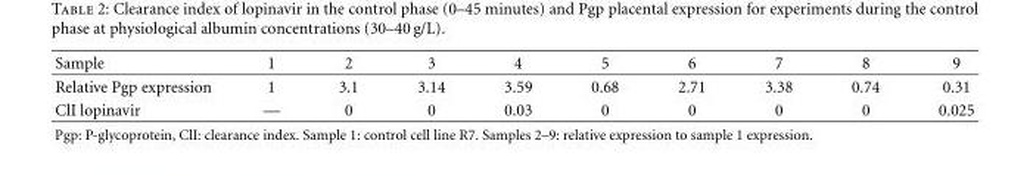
<table><thead><tr><td>Sample</td><td>1</td><td>2</td><td>3</td><td>4</td><td>5</td><td>6</td><td>7</td><td>8</td><td>9</td></tr></thead><tbody><tr><td>Relative Pgp expression</td><td>1</td><td>3.1</td><td>3.14</td><td>3.59</td><td>0.68</td><td>2.71</td><td>3.38</td><td>0.74</td><td>0.31</td></tr><tr><td>ClI lopinavir</td><td>—</td><td>0</td><td>0</td><td>0.03</td><td>0</td><td>0</td><td>0</td><td>0</td><td>0.025</td></tr></tbody></table>